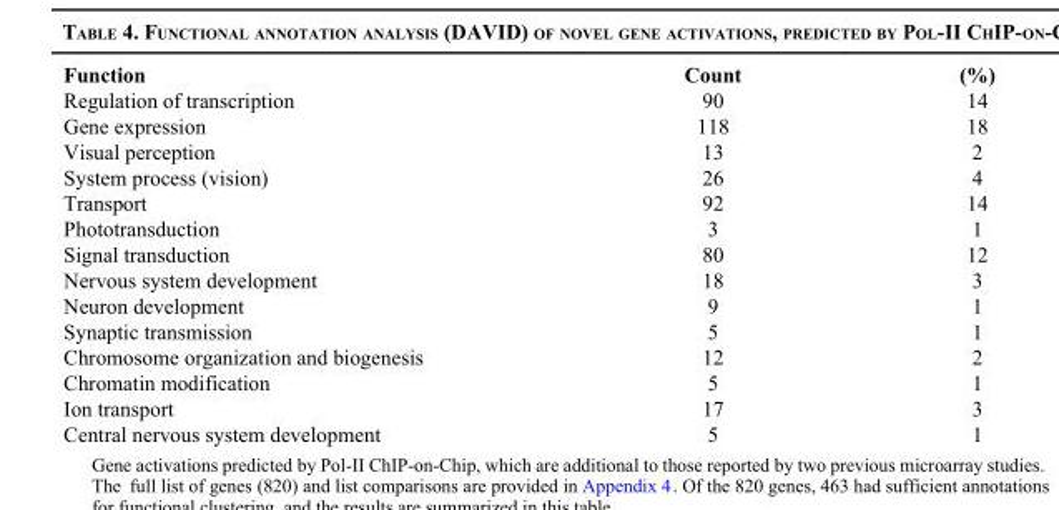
<table><thead><tr><td>Function</td><td>Count</td><td>(%)</td></tr></thead><tbody><tr><td>Regulation of transcription</td><td>90</td><td>14</td></tr><tr><td>Gene expression</td><td>118</td><td>18</td></tr><tr><td>Visual perception</td><td>13</td><td>2</td></tr><tr><td>System process (vision)</td><td>26</td><td>4</td></tr><tr><td>Transport</td><td>92</td><td>14</td></tr><tr><td>Phototransduction</td><td>3</td><td>1</td></tr><tr><td>Signal transduction</td><td>80</td><td>12</td></tr><tr><td>Nervous system development</td><td>18</td><td>3</td></tr><tr><td>Neuron development</td><td>9</td><td>1</td></tr><tr><td>Synaptic transmission</td><td>5</td><td>1</td></tr><tr><td>Chromosome organization and biogenesis</td><td>12</td><td>2</td></tr><tr><td>Chromatin modification</td><td>5</td><td>1</td></tr><tr><td>Ion transport</td><td>17</td><td>3</td></tr><tr><td>Central nervous system development</td><td>5</td><td>1</td></tr></tbody></table>